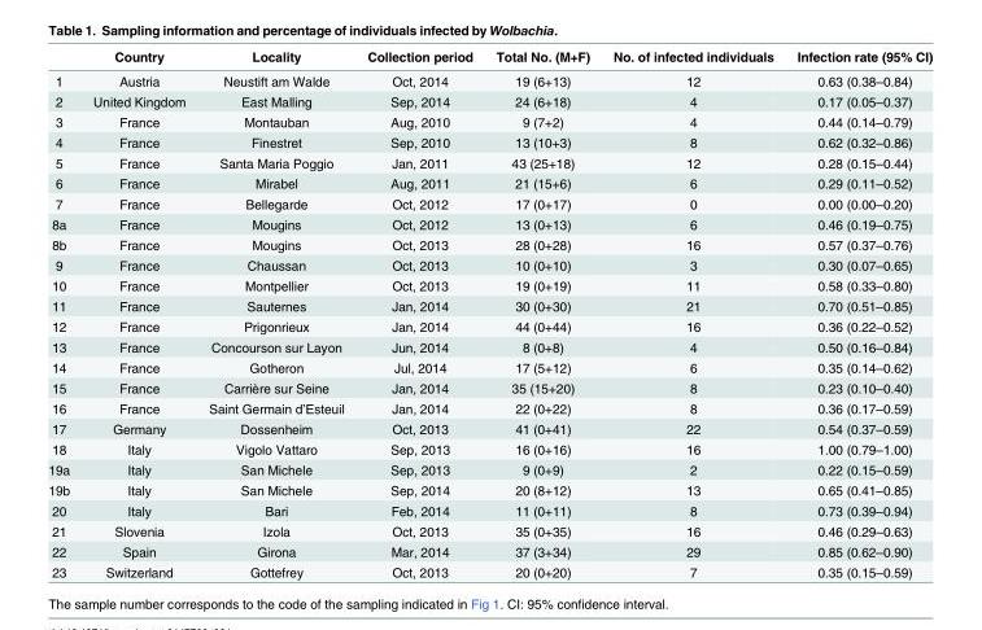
<table><thead><tr><td></td><td>Country</td><td>Locality</td><td>Collection period</td><td>Total No. (M+F)</td><td>No. of infected individuals</td><td>Infection rate (95% CI)</td></tr></thead><tbody><tr><td>1</td><td>Austria</td><td>Neustift am Walde</td><td>Oct, 2014</td><td>19 (6+13)</td><td>12</td><td>0.63 (0.38–0.84)</td></tr><tr><td>2</td><td>United Kingdom</td><td>East Malling</td><td>Sep, 2014</td><td>24 (6+18)</td><td>4</td><td>0.17 (0.05–0.37)</td></tr><tr><td>3</td><td>France</td><td>Montauban</td><td>Aug, 2010</td><td>9 (7+2)</td><td>4</td><td>0.44 (0.14–0.79)</td></tr><tr><td>4</td><td>France</td><td>Finestret</td><td>Sep, 2010</td><td>13 (10+3)</td><td>8</td><td>0.62 (0.32–0.86)</td></tr><tr><td>5</td><td>France</td><td>Santa Maria Poggio</td><td>Jan, 2011</td><td>43 (25+18)</td><td>12</td><td>0.28 (0.15–0.44)</td></tr><tr><td>6</td><td>France</td><td>Mirabel</td><td>Aug, 2011</td><td>21 (15+6)</td><td>6</td><td>0.29 (0.11–0.52)</td></tr><tr><td>7</td><td>France</td><td>Bellegarde</td><td>Oct, 2012</td><td>17 (0+17)</td><td>0</td><td>0.00 (0.00–0.20)</td></tr><tr><td>8a</td><td>France</td><td>Mougins</td><td>Oct, 2012</td><td>13 (0+13)</td><td>6</td><td>0.46 (0.19–0.75)</td></tr><tr><td>8b</td><td>France</td><td>Mougins</td><td>Oct, 2013</td><td>28 (0+28)</td><td>16</td><td>0.57 (0.37–0.76)</td></tr><tr><td>9</td><td>France</td><td>Chaussan</td><td>Oct, 2013</td><td>10 (0+10)</td><td>3</td><td>0.30 (0.07–0.65)</td></tr><tr><td>10</td><td>France</td><td>Montpellier</td><td>Oct, 2013</td><td>19 (0+19)</td><td>11</td><td>0.58 (0.33–0.80)</td></tr><tr><td>11</td><td>France</td><td>Sauternes</td><td>Jan, 2014</td><td>30 (0+30)</td><td>21</td><td>0.70 (0.51–0.85)</td></tr><tr><td>12</td><td>France</td><td>Prigonrieux</td><td>Jan, 2014</td><td>44 (0+44)</td><td>16</td><td>0.36 (0.22–0.52)</td></tr><tr><td>13</td><td>France</td><td>Concourson sur Layon</td><td>Jun, 2014</td><td>8 (0+8)</td><td>4</td><td>0.50 (0.16–0.84)</td></tr><tr><td>14</td><td>France</td><td>Gotheron</td><td>Jul, 2014</td><td>17 (5+12)</td><td>6</td><td>0.35 (0.14–0.62)</td></tr><tr><td>15</td><td>France</td><td>Carrière sur Seine</td><td>Jan, 2014</td><td>35 (15+20)</td><td>8</td><td>0.23 (0.10–0.40)</td></tr><tr><td>16</td><td>France</td><td>Saint Germain d’Esteuil</td><td>Jan, 2014</td><td>22 (0+22)</td><td>8</td><td>0.36 (0.17–0.59)</td></tr><tr><td>17</td><td>Germany</td><td>Dossenheim</td><td>Oct, 2013</td><td>41 (0+41)</td><td>22</td><td>0.54 (0.37–0.59)</td></tr><tr><td>18</td><td>Italy</td><td>Vigolo Vattaro</td><td>Sep, 2013</td><td>16 (0+16)</td><td>16</td><td>1.00 (0.79–1.00)</td></tr><tr><td>19a</td><td>Italy</td><td>San Michele</td><td>Sep, 2013</td><td>9 (0+9)</td><td>2</td><td>0.22 (0.15–0.59)</td></tr><tr><td>19b</td><td>Italy</td><td>San Michele</td><td>Sep, 2014</td><td>20 (8+12)</td><td>13</td><td>0.65 (0.41–0.85)</td></tr><tr><td>20</td><td>Italy</td><td>Bari</td><td>Feb, 2014</td><td>11 (0+11)</td><td>8</td><td>0.73 (0.39–0.94)</td></tr><tr><td>21</td><td>Slovenia</td><td>Izola</td><td>Oct, 2013</td><td>35 (0+35)</td><td>16</td><td>0.46 (0.29–0.63)</td></tr><tr><td>22</td><td>Spain</td><td>Girona</td><td>Mar, 2014</td><td>37 (3+34)</td><td>29</td><td>0.85 (0.62–0.90)</td></tr><tr><td>23</td><td>Switzerland</td><td>Gottefrey</td><td>Oct, 2013</td><td>20 (0+20)</td><td>7</td><td>0.35 (0.15–0.59)</td></tr></tbody></table>